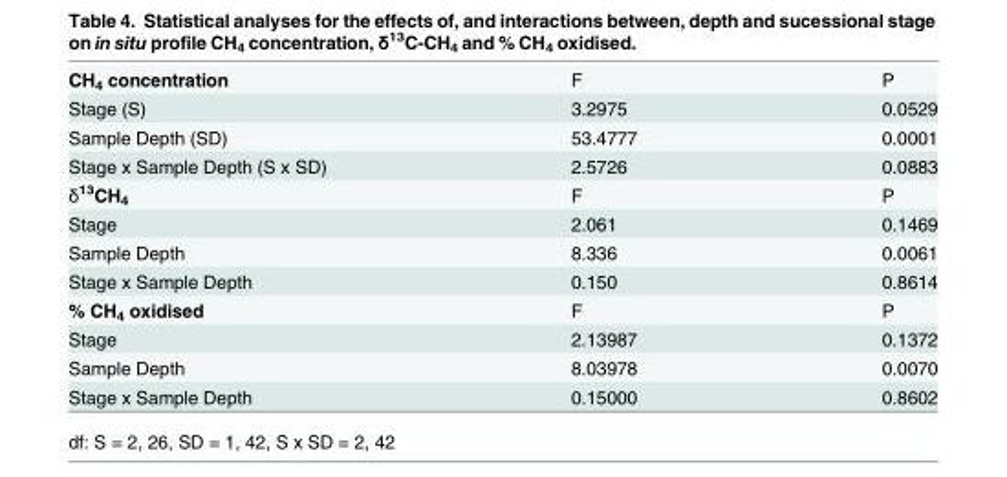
<table><tbody><tr><td>CH<sub>4</sub> concentration</td><td>F</td><td>P</td></tr><tr><td>Stage (S)</td><td>3.2975</td><td>0.0529</td></tr><tr><td>Sample Depth (SD)</td><td>53.4777</td><td>0.0001</td></tr><tr><td>Stage x Sample Depth (S x SD)</td><td>2.5726</td><td>0.0883</td></tr><tr><td>δ<sup>13</sup>CH<sub>4</sub></td><td>F</td><td>P</td></tr><tr><td>Stage</td><td>2.061</td><td>0.1469</td></tr><tr><td>Sample Depth</td><td>8.336</td><td>0.0061</td></tr><tr><td>Stage x Sample Depth</td><td>0.150</td><td>0.8614</td></tr><tr><td>% CH<sub>4</sub> oxidised</td><td>F</td><td>P</td></tr><tr><td>Stage</td><td>2.13987</td><td>0.1372</td></tr><tr><td>Sample Depth</td><td>8.03978</td><td>0.0070</td></tr><tr><td>Stage x Sample Depth</td><td>0.15000</td><td>0.8602</td></tr></tbody></table>